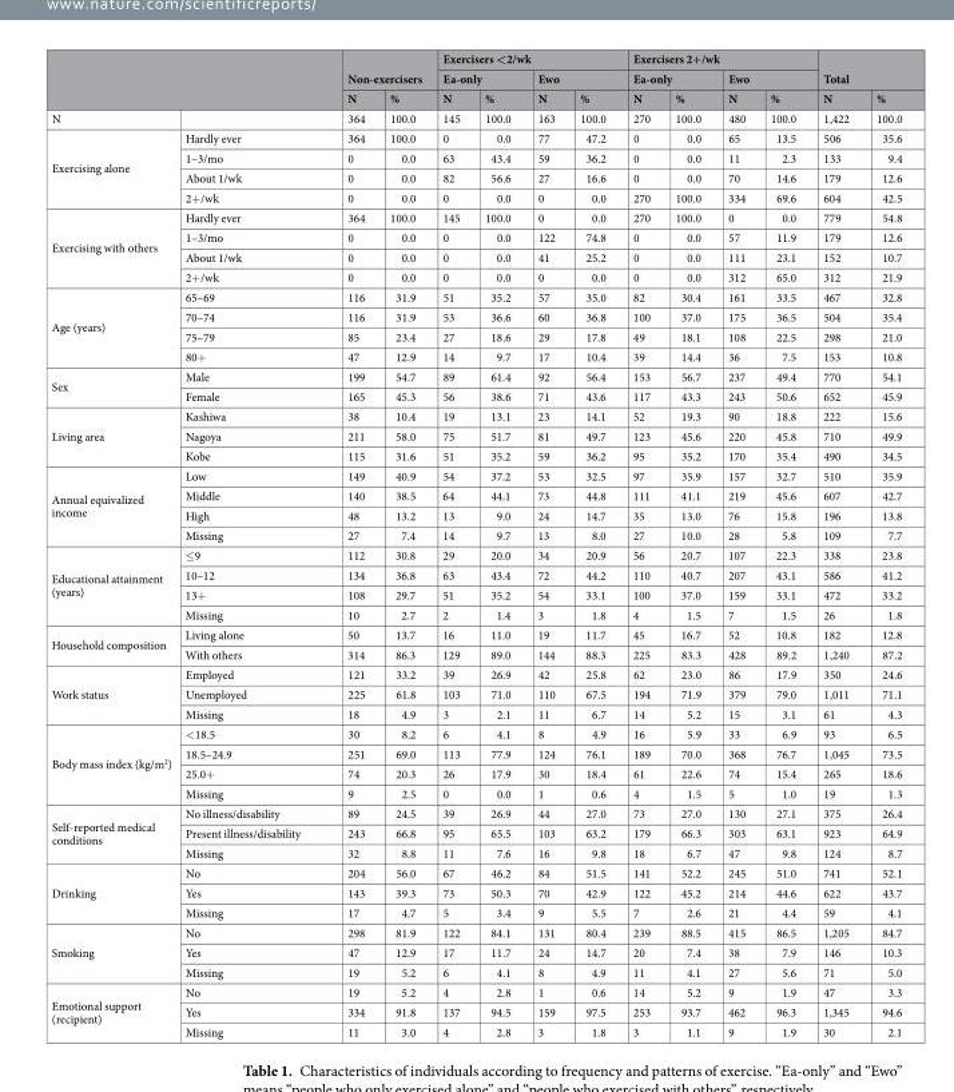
<table><thead><tr><td rowspan="3"></td><td rowspan="3"></td><td rowspan="2" colspan="2">Non-exercisers</td><td colspan="4">Exercisers &lt;2/wk</td><td colspan="4">Exercisers 2+/wk</td><td rowspan="2" colspan="2">Total</td></tr><tr><td colspan="2">Ea-only</td><td colspan="2">Ewo</td><td colspan="2">Ea-only</td><td colspan="2">Ewo</td></tr><tr><td>N</td><td>%</td><td>N</td><td>%</td><td>N</td><td>%</td><td>N</td><td>%</td><td>N</td><td>%</td><td>N</td><td>%</td></tr></thead><tbody><tr><td>N</td><td></td><td>364</td><td>100.0</td><td>145</td><td>100.0</td><td>163</td><td>100.0</td><td>270</td><td>100.0</td><td>480</td><td>100.0</td><td>1,422</td><td>100.0</td></tr><tr><td rowspan="4">Exercising alone</td><td>Hardly ever</td><td>364</td><td>100.0</td><td>0</td><td>0.0</td><td>77</td><td>47.2</td><td>0</td><td>0.0</td><td>65</td><td>13.5</td><td>506</td><td>35.6</td></tr><tr><td>1–3/mo</td><td>0</td><td>0.0</td><td>63</td><td>43.4</td><td>59</td><td>36.2</td><td>0</td><td>0.0</td><td>11</td><td>2.3</td><td>133</td><td>9.4</td></tr><tr><td>About 1/wk</td><td>0</td><td>0.0</td><td>82</td><td>56.6</td><td>27</td><td>16.6</td><td>0</td><td>0.0</td><td>70</td><td>14.6</td><td>179</td><td>12.6</td></tr><tr><td>2+/wk</td><td>0</td><td>0.0</td><td>0</td><td>0.0</td><td>0</td><td>0.0</td><td>270</td><td>100.0</td><td>334</td><td>69.6</td><td>604</td><td>42.5</td></tr><tr><td rowspan="4">Exercising with others</td><td>Hardly ever</td><td>364</td><td>100.0</td><td>145</td><td>100.0</td><td>0</td><td>0.0</td><td>270</td><td>100.0</td><td>0</td><td>0.0</td><td>779</td><td>54.8</td></tr><tr><td>1–3/mo</td><td>0</td><td>0.0</td><td>0</td><td>0.0</td><td>122</td><td>74.8</td><td>0</td><td>0.0</td><td>57</td><td>11.9</td><td>179</td><td>12.6</td></tr><tr><td>About 1/wk</td><td>0</td><td>0.0</td><td>0</td><td>0.0</td><td>41</td><td>25.2</td><td>0</td><td>0.0</td><td>111</td><td>23.1</td><td>152</td><td>10.7</td></tr><tr><td>2+/wk</td><td>0</td><td>0.0</td><td>0</td><td>0.0</td><td>0</td><td>0.0</td><td>0</td><td>0.0</td><td>312</td><td>65.0</td><td>312</td><td>21.9</td></tr><tr><td rowspan="4">Age (years)</td><td>65–69</td><td>116</td><td>31.9</td><td>51</td><td>35.2</td><td>57</td><td>35.0</td><td>82</td><td>30.4</td><td>161</td><td>33.5</td><td>467</td><td>32.8</td></tr><tr><td>70–74</td><td>116</td><td>31.9</td><td>53</td><td>36.6</td><td>60</td><td>36.8</td><td>100</td><td>37.0</td><td>175</td><td>36.5</td><td>504</td><td>35.4</td></tr><tr><td>75–79</td><td>85</td><td>23.4</td><td>27</td><td>18.6</td><td>29</td><td>17.8</td><td>49</td><td>18.1</td><td>108</td><td>22.5</td><td>298</td><td>21.0</td></tr><tr><td>80+</td><td>47</td><td>12.9</td><td>14</td><td>9.7</td><td>17</td><td>10.4</td><td>39</td><td>14.4</td><td>36</td><td>7.5</td><td>153</td><td>10.8</td></tr><tr><td rowspan="2">Sex</td><td>Male</td><td>199</td><td>54.7</td><td>89</td><td>61.4</td><td>92</td><td>56.4</td><td>153</td><td>56.7</td><td>237</td><td>49.4</td><td>770</td><td>54.1</td></tr><tr><td>Female</td><td>165</td><td>45.3</td><td>56</td><td>38.6</td><td>71</td><td>43.6</td><td>117</td><td>43.3</td><td>243</td><td>50.6</td><td>652</td><td>45.9</td></tr><tr><td rowspan="3">Living area</td><td>Kashiwa</td><td>38</td><td>10.4</td><td>19</td><td>13.1</td><td>23</td><td>14.1</td><td>52</td><td>19.3</td><td>90</td><td>18.8</td><td>222</td><td>15.6</td></tr><tr><td>Nagoya</td><td>211</td><td>58.0</td><td>75</td><td>51.7</td><td>81</td><td>49.7</td><td>123</td><td>45.6</td><td>220</td><td>45.8</td><td>710</td><td>49.9</td></tr><tr><td>Kobe</td><td>115</td><td>31.6</td><td>51</td><td>35.2</td><td>59</td><td>36.2</td><td>95</td><td>35.2</td><td>170</td><td>35.4</td><td>490</td><td>34.5</td></tr><tr><td rowspan="4">Annual equivalized income</td><td>Low</td><td>149</td><td>40.9</td><td>54</td><td>37.2</td><td>53</td><td>32.5</td><td>97</td><td>35.9</td><td>157</td><td>32.7</td><td>510</td><td>35.9</td></tr><tr><td>Middle</td><td>140</td><td>38.5</td><td>64</td><td>44.1</td><td>73</td><td>44.8</td><td>111</td><td>41.1</td><td>219</td><td>45.6</td><td>607</td><td>42.7</td></tr><tr><td>High</td><td>48</td><td>13.2</td><td>13</td><td>9.0</td><td>24</td><td>14.7</td><td>35</td><td>13.0</td><td>76</td><td>15.8</td><td>196</td><td>13.8</td></tr><tr><td>Missing</td><td>27</td><td>7.4</td><td>14</td><td>9.7</td><td>13</td><td>8.0</td><td>27</td><td>10.0</td><td>28</td><td>5.8</td><td>109</td><td>7.7</td></tr><tr><td rowspan="4">Educational attainment (years)</td><td>≤9</td><td>112</td><td>30.8</td><td>29</td><td>20.0</td><td>34</td><td>20.9</td><td>56</td><td>20.7</td><td>107</td><td>22.3</td><td>338</td><td>23.8</td></tr><tr><td>10–12</td><td>134</td><td>36.8</td><td>63</td><td>43.4</td><td>72</td><td>44.2</td><td>110</td><td>40.7</td><td>207</td><td>43.1</td><td>586</td><td>41.2</td></tr><tr><td>13+</td><td>108</td><td>29.7</td><td>51</td><td>35.2</td><td>54</td><td>33.1</td><td>100</td><td>37.0</td><td>159</td><td>33.1</td><td>472</td><td>33.2</td></tr><tr><td>Missing</td><td>10</td><td>2.7</td><td>2</td><td>1.4</td><td>3</td><td>1.8</td><td>4</td><td>1.5</td><td>7</td><td>1.5</td><td>26</td><td>1.8</td></tr><tr><td rowspan="2">Household composition</td><td>Living alone</td><td>50</td><td>13.7</td><td>16</td><td>11.0</td><td>19</td><td>11.7</td><td>45</td><td>16.7</td><td>52</td><td>10.8</td><td>182</td><td>12.8</td></tr><tr><td>With others</td><td>314</td><td>86.3</td><td>129</td><td>89.0</td><td>144</td><td>88.3</td><td>225</td><td>83.3</td><td>428</td><td>89.2</td><td>1,240</td><td>87.2</td></tr><tr><td rowspan="3">Work status</td><td>Employed</td><td>121</td><td>33.2</td><td>39</td><td>26.9</td><td>42</td><td>25.8</td><td>62</td><td>23.0</td><td>86</td><td>17.9</td><td>350</td><td>24.6</td></tr><tr><td>Unemployed</td><td>225</td><td>61.8</td><td>103</td><td>71.0</td><td>110</td><td>67.5</td><td>194</td><td>71.9</td><td>379</td><td>79.0</td><td>1,011</td><td>71.1</td></tr><tr><td>Missing</td><td>18</td><td>4.9</td><td>3</td><td>2.1</td><td>11</td><td>6.7</td><td>14</td><td>5.2</td><td>15</td><td>3.1</td><td>61</td><td>4.3</td></tr><tr><td rowspan="4">Body mass index (kg/m<sup>2</sup>)</td><td>&lt;18.5</td><td>30</td><td>8.2</td><td>6</td><td>4.1</td><td>8</td><td>4.9</td><td>16</td><td>5.9</td><td>33</td><td>6.9</td><td>93</td><td>6.5</td></tr><tr><td>18.5–24.9</td><td>251</td><td>69.0</td><td>113</td><td>77.9</td><td>124</td><td>76.1</td><td>189</td><td>70.0</td><td>368</td><td>76.7</td><td>1,045</td><td>73.5</td></tr><tr><td>25.0+</td><td>74</td><td>20.3</td><td>26</td><td>17.9</td><td>30</td><td>18.4</td><td>61</td><td>22.6</td><td>74</td><td>15.4</td><td>265</td><td>18.6</td></tr><tr><td>Missing</td><td>9</td><td>2.5</td><td>0</td><td>0.0</td><td>1</td><td>0.6</td><td>4</td><td>1.5</td><td>5</td><td>1.0</td><td>19</td><td>1.3</td></tr><tr><td rowspan="3">Self-reported medical conditions</td><td>No illness/disability</td><td>89</td><td>24.5</td><td>39</td><td>26.9</td><td>44</td><td>27.0</td><td>73</td><td>27.0</td><td>130</td><td>27.1</td><td>375</td><td>26.4</td></tr><tr><td>Present illness/disability</td><td>243</td><td>66.8</td><td>95</td><td>65.5</td><td>103</td><td>63.2</td><td>179</td><td>66.3</td><td>303</td><td>63.1</td><td>923</td><td>64.9</td></tr><tr><td>Missing</td><td>32</td><td>8.8</td><td>11</td><td>7.6</td><td>16</td><td>9.8</td><td>18</td><td>6.7</td><td>47</td><td>9.8</td><td>124</td><td>8.7</td></tr><tr><td rowspan="3">Drinking</td><td>No</td><td>204</td><td>56.0</td><td>67</td><td>46.2</td><td>84</td><td>51.5</td><td>141</td><td>52.2</td><td>245</td><td>51.0</td><td>741</td><td>52.1</td></tr><tr><td>Yes</td><td>143</td><td>39.3</td><td>73</td><td>50.3</td><td>70</td><td>42.9</td><td>122</td><td>45.2</td><td>214</td><td>44.6</td><td>622</td><td>43.7</td></tr><tr><td>Missing</td><td>17</td><td>4.7</td><td>5</td><td>3.4</td><td>9</td><td>5.5</td><td>7</td><td>2.6</td><td>21</td><td>4.4</td><td>59</td><td>4.1</td></tr><tr><td rowspan="3">Smoking</td><td>No</td><td>298</td><td>81.9</td><td>122</td><td>84.1</td><td>131</td><td>80.4</td><td>239</td><td>88.5</td><td>415</td><td>86.5</td><td>1,205</td><td>84.7</td></tr><tr><td>Yes</td><td>47</td><td>12.9</td><td>17</td><td>11.7</td><td>24</td><td>14.7</td><td>20</td><td>7.4</td><td>38</td><td>7.9</td><td>146</td><td>10.3</td></tr><tr><td>Missing</td><td>19</td><td>5.2</td><td>6</td><td>4.1</td><td>8</td><td>4.9</td><td>11</td><td>4.1</td><td>27</td><td>5.6</td><td>71</td><td>5.0</td></tr><tr><td rowspan="3">Emotional support (recipient)</td><td>No</td><td>19</td><td>5.2</td><td>4</td><td>2.8</td><td>1</td><td>0.6</td><td>14</td><td>5.2</td><td>9</td><td>1.9</td><td>47</td><td>3.3</td></tr><tr><td>Yes</td><td>334</td><td>91.8</td><td>137</td><td>94.5</td><td>159</td><td>97.5</td><td>253</td><td>93.7</td><td>462</td><td>96.3</td><td>1,345</td><td>94.6</td></tr><tr><td>Missing</td><td>11</td><td>3.0</td><td>4</td><td>2.8</td><td>3</td><td>1.8</td><td>3</td><td>1.1</td><td>9</td><td>1.9</td><td>30</td><td>2.1</td></tr></tbody></table>